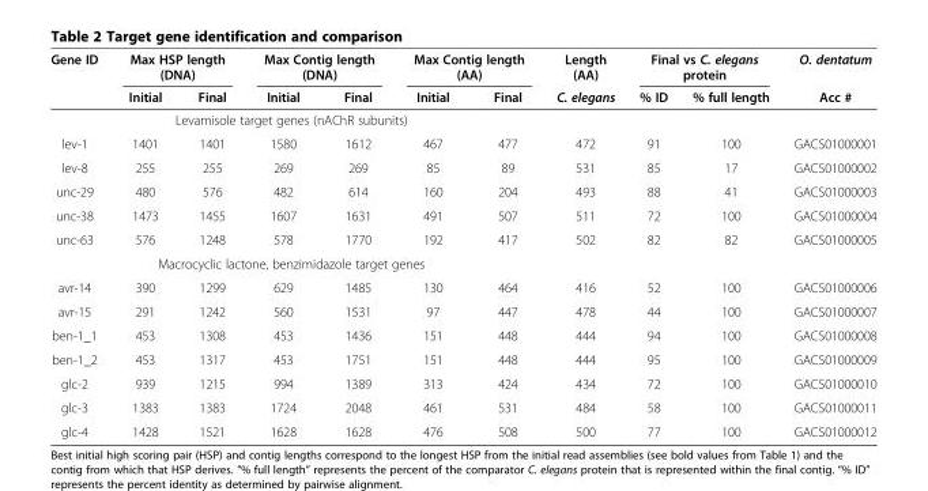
<table><thead><tr><td rowspan="2">Gene ID</td><td colspan="2">Max HSP length (DNA)</td><td colspan="2">Max Contig length (DNA)</td><td colspan="2">Max Contig length (AA)</td><td rowspan="2">Length (AA) C. elegans</td><td colspan="2">Final vs C. elegans protein</td><td rowspan="2">O. dentatum Acc #</td></tr><tr><td>Initial</td><td>Final</td><td>Initial</td><td>Final</td><td>Initial</td><td>Final</td><td>% ID</td><td>% full length</td></tr></thead><tbody><tr><td colspan="11">Levamisole target genes (nAChR subunits)</td></tr><tr><td>lev-1</td><td>1401</td><td>1401</td><td>1580</td><td>1612</td><td>467</td><td>477</td><td>472</td><td>91</td><td>100</td><td>GACS01000001</td></tr><tr><td>lev-8</td><td>255</td><td>255</td><td>269</td><td>269</td><td>85</td><td>89</td><td>531</td><td>85</td><td>17</td><td>GACS01000002</td></tr><tr><td>unc-29</td><td>480</td><td>576</td><td>482</td><td>614</td><td>160</td><td>204</td><td>493</td><td>88</td><td>41</td><td>GACS01000003</td></tr><tr><td>unc-38</td><td>1473</td><td>1455</td><td>1607</td><td>1631</td><td>491</td><td>507</td><td>511</td><td>72</td><td>100</td><td>GACS01000004</td></tr><tr><td>unc-63</td><td>576</td><td>1248</td><td>578</td><td>1770</td><td>192</td><td>417</td><td>502</td><td>82</td><td>82</td><td>GACS01000005</td></tr><tr><td colspan="11">Macrocyclic lactone, benzimidazole target genes</td></tr><tr><td>avr-14</td><td>390</td><td>1299</td><td>629</td><td>1485</td><td>130</td><td>464</td><td>416</td><td>52</td><td>100</td><td>GACS01000006</td></tr><tr><td>avr-15</td><td>291</td><td>1242</td><td>560</td><td>1531</td><td>97</td><td>447</td><td>478</td><td>44</td><td>100</td><td>GACS01000007</td></tr><tr><td>ben-1_1</td><td>453</td><td>1308</td><td>453</td><td>1436</td><td>151</td><td>448</td><td>444</td><td>94</td><td>100</td><td>GACS01000008</td></tr><tr><td>ben-1_2</td><td>453</td><td>1317</td><td>453</td><td>1751</td><td>151</td><td>448</td><td>444</td><td>95</td><td>100</td><td>GACS01000009</td></tr><tr><td>glc-2</td><td>939</td><td>1215</td><td>994</td><td>1389</td><td>313</td><td>424</td><td>434</td><td>72</td><td>100</td><td>GACS01000010</td></tr><tr><td>glc-3</td><td>1383</td><td>1383</td><td>1724</td><td>2048</td><td>461</td><td>531</td><td>484</td><td>58</td><td>100</td><td>GACS01000011</td></tr><tr><td>glc-4</td><td>1428</td><td>1521</td><td>1628</td><td>1628</td><td>476</td><td>508</td><td>500</td><td>77</td><td>100</td><td>GACS01000012</td></tr></tbody></table>